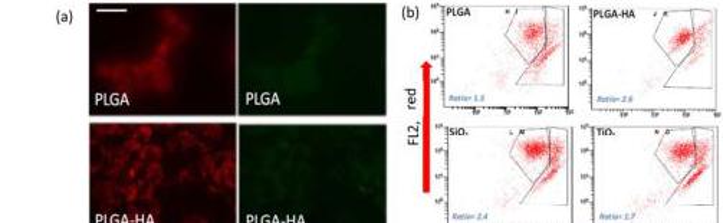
<table><thead><tr><td>Ratio Red/Green</td><td>Measure 1</td><td>Measure 2</td><td>Measure 3</td><td>Mean</td><td>SD<sup>1</sup></td></tr></thead><tbody><tr><td>PLGA</td><td>1.44</td><td>2.16</td><td>1.46</td><td>1.69</td><td>0.41</td></tr><tr><td>PLGA-HA</td><td>2.59</td><td>2.66</td><td>2.55</td><td>2.57</td><td>0.09</td></tr><tr><td>PLGA-SiO<sub>2</sub></td><td>2.57</td><td>2.18</td><td>2.39</td><td>2.38</td><td>0.19</td></tr><tr><td>PLGA-TiO<sub>2</sub></td><td>1.34</td><td>1.43</td><td>1.71</td><td>1.49</td><td>0.19</td></tr></tbody></table>